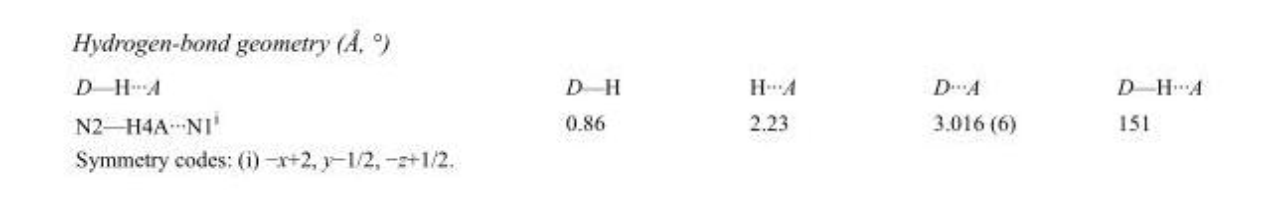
<table><tbody><tr><td>D—H···A</td><td>D—H</td><td>H···A</td><td>D···A</td><td>D—H···A</td></tr><tr><td>N2—H4A···N1<sup>i</sup></td><td>0.86</td><td>2.23</td><td>3.016 (6)</td><td>151</td></tr></tbody></table>